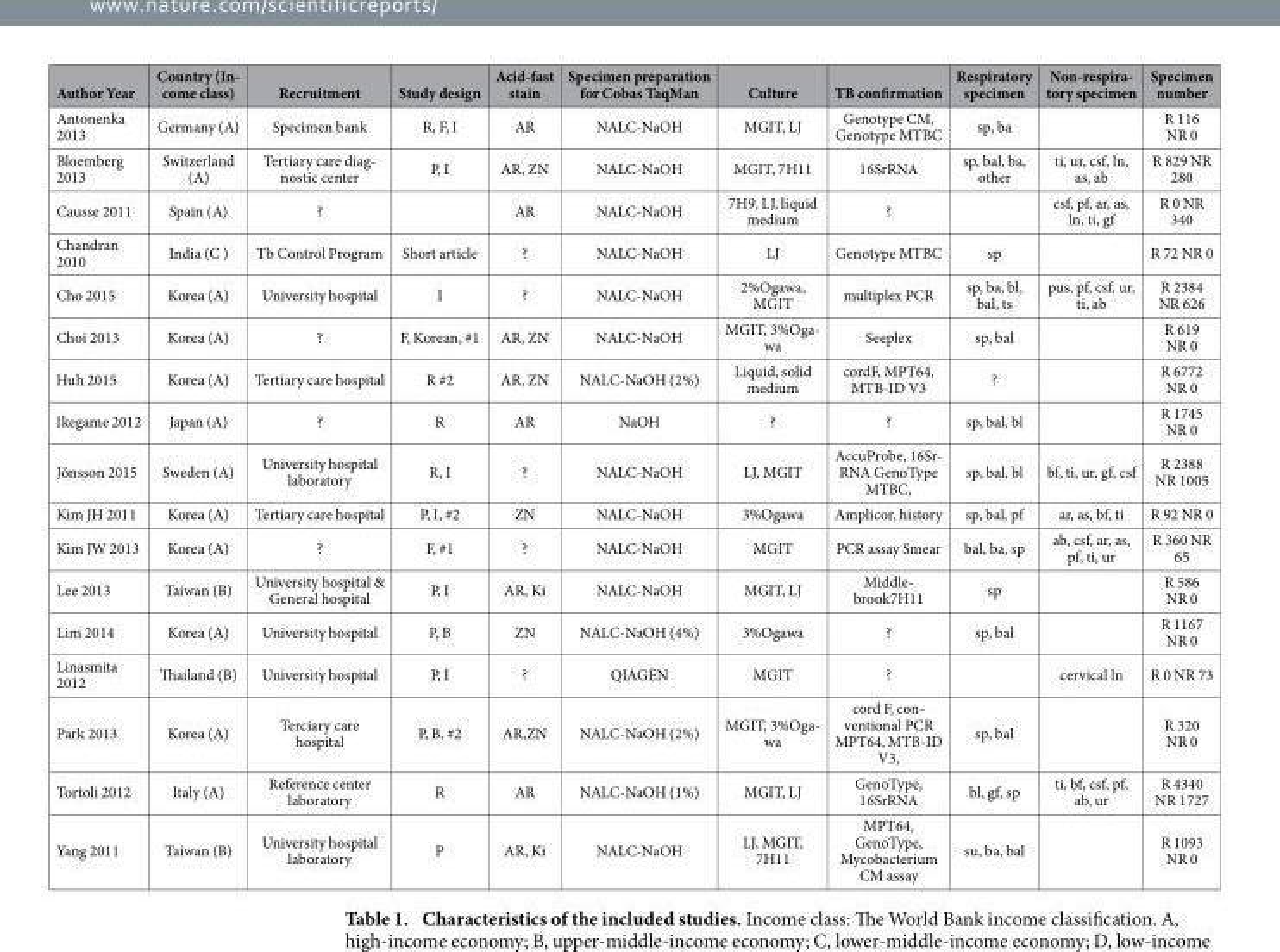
<table><thead><tr><td>Author Year</td><td>Country (In- come class)</td><td>Recruitment</td><td>Study design</td><td>Acid-fast stain</td><td>Specimen preparation for Cobas TaqMan</td><td>Culture</td><td>TB confirmation</td><td>Respiratory specimen</td><td>Non-respira- tory specimen</td><td>Specimen number</td></tr></thead><tbody><tr><td>Antonenka 2013</td><td>Germany (A)</td><td>Specimen bank</td><td>R, F, I</td><td>AR</td><td>NALC-NaOH</td><td>MGIT, LJ</td><td>Genotype CM, Genotype MTBC</td><td>sp, ba</td><td></td><td>R 116 NR 0</td></tr><tr><td>Bloemberg 2013</td><td>Switzerland (A)</td><td>Tertiary care diag- nostic center</td><td>P, I</td><td>AR, ZN</td><td>NALC-NaOH</td><td>MGIT, 7H11</td><td>16SrRNA</td><td>sp, bal, ba, other</td><td>ti, ur, csf, ln, as, ab</td><td>R 829 NR 280</td></tr><tr><td>Causse 2011</td><td>Spain (A)</td><td>?</td><td></td><td>AR</td><td>NALC-NaOH</td><td>7H9, LJ, liquid medium</td><td>?</td><td></td><td>csf, pf, ar, as, ln, ti, gf</td><td>R 0 NR 340</td></tr><tr><td>Chandran 2010</td><td>India (C )</td><td>Tb Control Program</td><td>Short article</td><td>?</td><td>NALC-NaOH</td><td>LJ</td><td>Genotype MTBC</td><td>sp</td><td></td><td>R 72 NR 0</td></tr><tr><td>Cho 2015</td><td>Korea (A)</td><td>University hospital</td><td>I</td><td>?</td><td>NALC-NaOH</td><td>2%Ogawa, MGIT</td><td>multiplex PCR</td><td>sp, ba, bl, bal, ts</td><td>pus, pf, csf, ur, ti, ab</td><td>R 2384 NR 626</td></tr><tr><td>Choi 2013</td><td>Korea (A)</td><td>?</td><td>F, Korean, #1</td><td>AR, ZN</td><td>NALC-NaOH</td><td>MGIT, 3%Oga- wa</td><td>Seeplex</td><td>sp, bal</td><td></td><td>R 619 NR 0</td></tr><tr><td>Huh 2015</td><td>Korea (A)</td><td>Tertiary care hospital</td><td>R #2</td><td>AR, ZN</td><td>NALC-NaOH (2%)</td><td>Liquid, solid medium</td><td>cordF, MPT64, MTB-ID V3</td><td>?</td><td></td><td>R 6772 NR 0</td></tr><tr><td>Ikegame 2012</td><td>Japan (A)</td><td>?</td><td>R</td><td>AR</td><td>NaOH</td><td>?</td><td>?</td><td>sp, bal, bl</td><td></td><td>R 1745 NR 0</td></tr><tr><td>Jönsson 2015</td><td>Sweden (A)</td><td>University hospital laboratory</td><td>R, I</td><td>?</td><td>NALC-NaOH</td><td>LJ, MGIT</td><td>AccuProbe, 16Sr- RNA GenoType MTBC,</td><td>sp, bal, bl</td><td>bf, ti, ur, gf, csf</td><td>R 2388 NR 1005</td></tr><tr><td>Kim JH 2011</td><td>Korea (A)</td><td>Tertiary care hospital</td><td>P, I, #2</td><td>ZN</td><td>NALC-NaOH</td><td>3%Ogawa</td><td>Amplicor, history</td><td>sp, bal, pf</td><td>ar, as, bf, ti</td><td>R 92 NR 0</td></tr><tr><td>Kim JW 2013</td><td>Korea (A)</td><td>?</td><td>F, #1</td><td>?</td><td>NALC-NaOH</td><td>MGIT</td><td>PCR assay Smear</td><td>bal, ba, sp</td><td>ab, csf, ar, as, pf, ti, ur</td><td>R 360 NR 65</td></tr><tr><td>Lee 2013</td><td>Taiwan (B)</td><td>University hospital &amp; General hospital</td><td>P, I</td><td>AR, Ki</td><td>NALC-NaOH</td><td>MGIT, LJ</td><td>Middle- brook7H11</td><td>sp</td><td></td><td>R 586 NR 0</td></tr><tr><td>Lim 2014</td><td>Korea (A)</td><td>University hospital</td><td>P, B</td><td>ZN</td><td>NALC-NaOH (4%)</td><td>3%Ogawa</td><td>?</td><td>sp, bal</td><td></td><td>R 1167 NR 0</td></tr><tr><td>Linasmita 2012</td><td>Thailand (B)</td><td>University hospital</td><td>P, I</td><td>?</td><td>QIAGEN</td><td>MGIT</td><td>?</td><td></td><td>cervical ln</td><td>R 0 NR 73</td></tr><tr><td>Park 2013</td><td>Korea (A)</td><td>Terciary care hospital</td><td>P, B, #2</td><td>AR,ZN</td><td>NALC-NaOH (2%)</td><td>MGIT, 3%Oga- wa</td><td>cord F, con- ventional PCR MPT64, MTB-ID V3,</td><td>sp, bal</td><td></td><td>R 320 NR 0</td></tr><tr><td>Tortoli 2012</td><td>Italy (A)</td><td>Reference center laboratory</td><td>R</td><td>AR</td><td>NALC-NaOH (1%)</td><td>MGIT, LJ</td><td>GenoType, 16SrRNA</td><td>bl, gf, sp</td><td>ti, bf, csf, pf, ab, ur</td><td>R 4340 NR 1727</td></tr><tr><td>Yang 2011</td><td>Taiwan (B)</td><td>University hospital laboratory</td><td>P</td><td>AR, Ki</td><td>NALC-NaOH</td><td>LJ, MGIT, 7H11</td><td>MPT64, GenoType, Mycobacterium CM assay</td><td>su, ba, bal</td><td></td><td>R 1093 NR 0</td></tr></tbody></table>